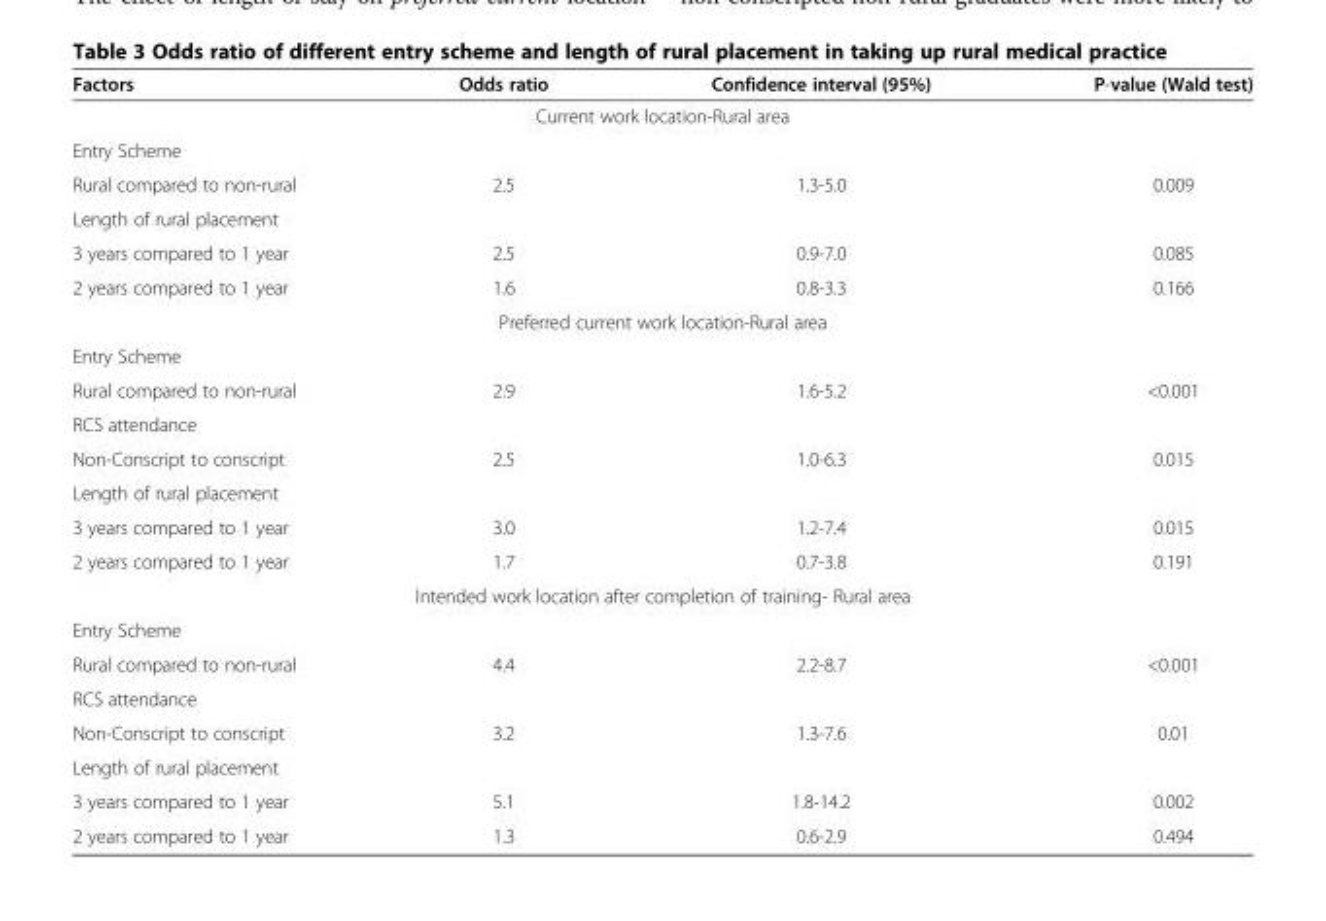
<table><thead><tr><td>Factors</td><td>Odds ratio</td><td>Confidence interval (95%)</td><td>P-value (Wald test)</td></tr></thead><tbody><tr><td colspan="4">Current work location-Rural area</td></tr><tr><td colspan="4">Entry Scheme</td></tr><tr><td>Rural compared to non-rural</td><td>2.5</td><td>1.3-5.0</td><td>0.009</td></tr><tr><td colspan="4">Length of rural placement</td></tr><tr><td>3 years compared to 1 year</td><td>2.5</td><td>0.9-7.0</td><td>0.085</td></tr><tr><td>2 years compared to 1 year</td><td>1.6</td><td>0.8-3.3</td><td>0.166</td></tr><tr><td colspan="4">Preferred current work location-Rural area</td></tr><tr><td colspan="4">Entry Scheme</td></tr><tr><td>Rural compared to non-rural</td><td>2.9</td><td>1.6-5.2</td><td>&lt;0.001</td></tr><tr><td colspan="4">RCS attendance</td></tr><tr><td>Non-Conscript to conscript</td><td>2.5</td><td>1.0-6.3</td><td>0.015</td></tr><tr><td colspan="4">Length of rural placement</td></tr><tr><td>3 years compared to 1 year</td><td>3.0</td><td>1.2-7.4</td><td>0.015</td></tr><tr><td>2 years compared to 1 year</td><td>1.7</td><td>0.7-3.8</td><td>0.191</td></tr><tr><td colspan="4">Intended work location after completion of training- Rural area</td></tr><tr><td colspan="4">Entry Scheme</td></tr><tr><td>Rural compared to non-rural</td><td>4.4</td><td>2.2-8.7</td><td>&lt;0.001</td></tr><tr><td colspan="4">RCS attendance</td></tr><tr><td>Non-Conscript to conscript</td><td>3.2</td><td>1.3-7.6</td><td>0.01</td></tr><tr><td colspan="4">Length of rural placement</td></tr><tr><td>3 years compared to 1 year</td><td>5.1</td><td>1.8-14.2</td><td>0.002</td></tr><tr><td>2 years compared to 1 year</td><td>1.3</td><td>0.6-2.9</td><td>0.494</td></tr></tbody></table>